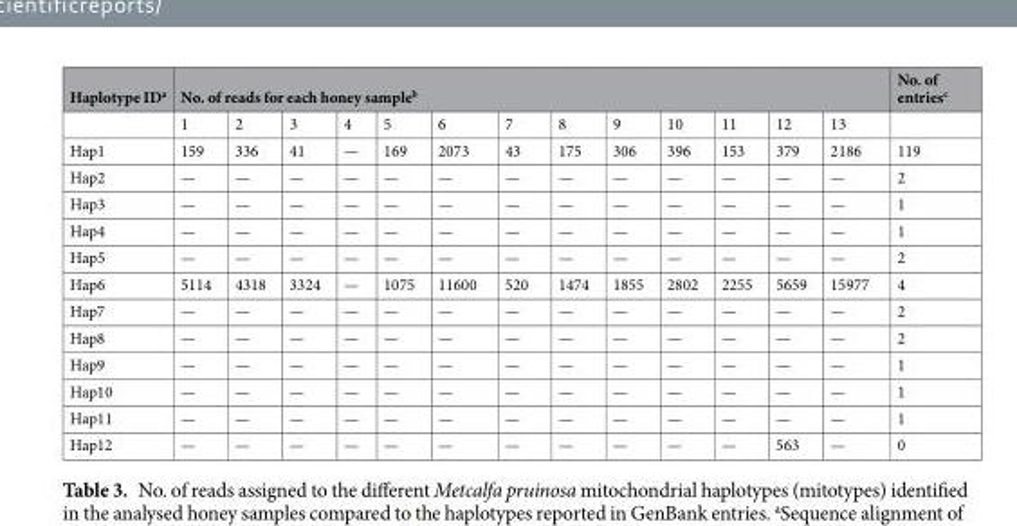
<table><thead><tr><td rowspan="2">Haplotype ID<sup>a</sup></td><td colspan="13">No. of reads for each honey sample<sup>b</sup></td><td rowspan="2">No. of entries<sup>c</sup></td></tr><tr><td>1</td><td>2</td><td>3</td><td>4</td><td>5</td><td>6</td><td>7</td><td>8</td><td>9</td><td>10</td><td>11</td><td>12</td><td>13</td></tr></thead><tbody><tr><td>Hap1</td><td>159</td><td>336</td><td>41</td><td>—</td><td>169</td><td>2073</td><td>43</td><td>175</td><td>306</td><td>396</td><td>153</td><td>379</td><td>2186</td><td>119</td></tr><tr><td>Hap2</td><td>—</td><td>—</td><td>—</td><td>—</td><td>—</td><td>—</td><td>—</td><td>—</td><td>—</td><td>—</td><td>—</td><td>—</td><td>—</td><td>2</td></tr><tr><td>Hap3</td><td>—</td><td>—</td><td>—</td><td>—</td><td>—</td><td>—</td><td>—</td><td>—</td><td>—</td><td>—</td><td>—</td><td>—</td><td>—</td><td>1</td></tr><tr><td>Hap4</td><td>—</td><td>—</td><td>—</td><td>—</td><td>—</td><td>—</td><td>—</td><td>—</td><td>—</td><td>—</td><td>—</td><td>—</td><td>—</td><td>1</td></tr><tr><td>Hap5</td><td>—</td><td>—</td><td>—</td><td>—</td><td>—</td><td>—</td><td>—</td><td>—</td><td>—</td><td>—</td><td>—</td><td>—</td><td>—</td><td>2</td></tr><tr><td>Hap6</td><td>5114</td><td>4318</td><td>3324</td><td>—</td><td>1075</td><td>11600</td><td>520</td><td>1474</td><td>1855</td><td>2802</td><td>2255</td><td>5659</td><td>15977</td><td>4</td></tr><tr><td>Hap7</td><td>—</td><td>—</td><td>—</td><td>—</td><td>—</td><td>—</td><td>—</td><td>—</td><td>—</td><td>—</td><td>—</td><td>—</td><td>—</td><td>2</td></tr><tr><td>Hap8</td><td>—</td><td>—</td><td>—</td><td>—</td><td>—</td><td>—</td><td>—</td><td>—</td><td>—</td><td>—</td><td>—</td><td>—</td><td>—</td><td>2</td></tr><tr><td>Hap9</td><td>—</td><td>—</td><td>—</td><td>—</td><td>—</td><td>—</td><td>—</td><td>—</td><td>—</td><td>—</td><td>—</td><td>—</td><td>—</td><td>1</td></tr><tr><td>Hap10</td><td>—</td><td>—</td><td>—</td><td>—</td><td>—</td><td>—</td><td>—</td><td>—</td><td>—</td><td>—</td><td>—</td><td>—</td><td>—</td><td>1</td></tr><tr><td>Hap11</td><td>—</td><td>—</td><td>—</td><td>—</td><td>—</td><td>—</td><td>—</td><td>—</td><td>—</td><td>—</td><td>—</td><td>—</td><td>—</td><td>1</td></tr><tr><td>Hap12</td><td>—</td><td>—</td><td>—</td><td>—</td><td>—</td><td>—</td><td>—</td><td>—</td><td>—</td><td>—</td><td>—</td><td>563</td><td>—</td><td>0</td></tr></tbody></table>